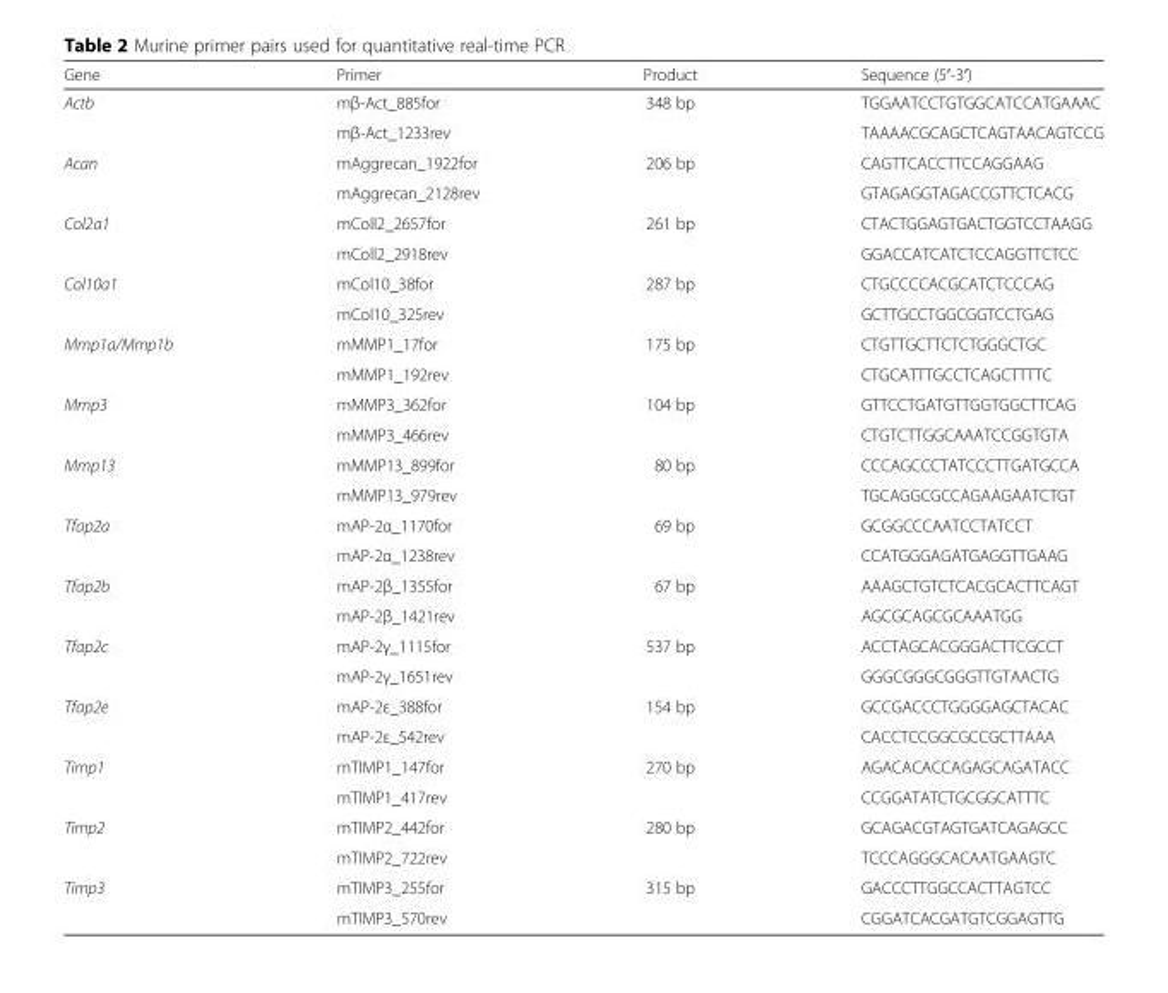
<table><thead><tr><td>Gene</td><td>Primer</td><td>Product</td><td>Sequence (5′-3′)</td></tr></thead><tbody><tr><td rowspan="2">Actb</td><td>mβ-Act_885for</td><td>348 bp</td><td>TGGAATCCTGTGGCATCCATGAAAC</td></tr><tr><td>mβ-Act_1233rev</td><td></td><td>TAAAACGCAGCTCAGTAACAGTCCG</td></tr><tr><td rowspan="2">Acan</td><td>mAggrecan_1922for</td><td>206 bp</td><td>CAGTTCACCTTCCAGGAAG</td></tr><tr><td>mAggrecan_2128rev</td><td></td><td>GTAGAGGTAGACCGTTCTCACG</td></tr><tr><td rowspan="2">Col2a1</td><td>mColl2_2657for</td><td>261 bp</td><td>CTACTGGAGTGACTGGTCCTAAGG</td></tr><tr><td>mColl2_2918rev</td><td></td><td>GGACCATCATCTCCAGGTTCTCC</td></tr><tr><td rowspan="2">Col10a1</td><td>mCol10_38for</td><td>287 bp</td><td>CTGCCCCACGCATCTCCCAG</td></tr><tr><td>mCol10_325rev</td><td></td><td>GCTTGCCTGGCGGTCCTGAG</td></tr><tr><td rowspan="2">Mmp1a/Mmp1b</td><td>mMMP1_17for</td><td>175 bp</td><td>CTGTTGCTTCTCTGGGCTGC</td></tr><tr><td>mMMP1_192rev</td><td></td><td>CTGCATTTGCCTCAGCTTTTC</td></tr><tr><td rowspan="2">Mmp3</td><td>mMMP3_362for</td><td>104 bp</td><td>GTTCCTGATGTTGGTGGCTTCAG</td></tr><tr><td>mMMP3_466rev</td><td></td><td>CTGTCTTGGCAAATCCGGTGTA</td></tr><tr><td rowspan="2">Mmp13</td><td>mMMP13_899for</td><td>80 bp</td><td>CCCAGCCCTATCCCTTGATGCCA</td></tr><tr><td>mMMP13_979rev</td><td></td><td>TGCAGGCGCCAGAAGAATCTGT</td></tr><tr><td rowspan="2">Tfap2a</td><td>mAP-2α_1170for</td><td>69 bp</td><td>GCGGCCCAATCCTATCCT</td></tr><tr><td>mAP-2α_1238rev</td><td></td><td>CCATGGGAGATGAGGTTGAAG</td></tr><tr><td rowspan="2">Tfap2b</td><td>mAP-2β_1355for</td><td>67 bp</td><td>AAAGCTGTCTCACGCACTTCAGT</td></tr><tr><td>mAP-2β_1421rev</td><td></td><td>AGCGCAGCGCAAATGG</td></tr><tr><td rowspan="2">Tfap2c</td><td>mAP-2γ_1115for</td><td>537 bp</td><td>ACCTAGCACGGGACTTCGCCT</td></tr><tr><td>mAP-2γ_1651rev</td><td></td><td>GGGCGGGCGGGTTGTAACTG</td></tr><tr><td rowspan="2">Tfap2e</td><td>mAP-2ε_388for</td><td>154 bp</td><td>GCCGACCCTGGGGAGCTACAC</td></tr><tr><td>mAP-2ε_542rev</td><td></td><td>CACCTCCGGCGCCGCTTAAA</td></tr><tr><td rowspan="2">Timp1</td><td>mTIMP1_147for</td><td>270 bp</td><td>AGACACACCAGAGCAGATACC</td></tr><tr><td>mTIMP1_417rev</td><td></td><td>CCGGATATCTGCGGCATTTC</td></tr><tr><td rowspan="2">Timp2</td><td>mTIMP2_442for</td><td>280 bp</td><td>GCAGACGTAGTGATCAGAGCC</td></tr><tr><td>mTIMP2_722rev</td><td></td><td>TCCCAGGGCACAATGAAGTC</td></tr><tr><td rowspan="2">Timp3</td><td>mTIMP3_255for</td><td>315 bp</td><td>GACCCTTGGCCACTTAGTCC</td></tr><tr><td>mTIMP3_570rev</td><td></td><td>CGGATCACGATGTCGGAGTTG</td></tr></tbody></table>